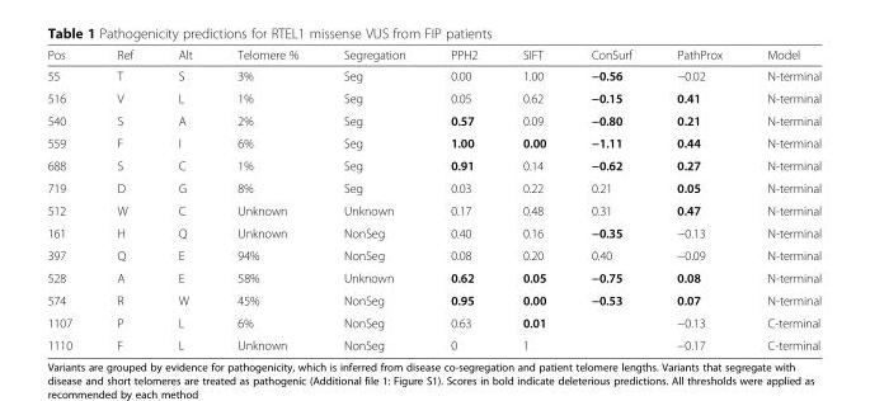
<table><thead><tr><td>Pos</td><td>Ref</td><td>Alt</td><td>Telomere %</td><td>Segregation</td><td>PPH2</td><td>SIFT</td><td>ConSurf</td><td>PathProx</td><td>Model</td></tr></thead><tbody><tr><td>55</td><td>T</td><td>S</td><td>3%</td><td>Seg</td><td>0.00</td><td>1.00</td><td>−0.56</td><td>−0.02</td><td>N-terminal</td></tr><tr><td>516</td><td>V</td><td>L</td><td>1%</td><td>Seg</td><td>0.05</td><td>0.62</td><td>−0.15</td><td>0.41</td><td>N-terminal</td></tr><tr><td>540</td><td>S</td><td>A</td><td>2%</td><td>Seg</td><td>0.57</td><td>0.09</td><td>−0.80</td><td>0.21</td><td>N-terminal</td></tr><tr><td>559</td><td>F</td><td>I</td><td>6%</td><td>Seg</td><td>1.00</td><td>0.00</td><td>−1.11</td><td>0.44</td><td>N-terminal</td></tr><tr><td>688</td><td>S</td><td>C</td><td>1%</td><td>Seg</td><td>0.91</td><td>0.14</td><td>−0.62</td><td>0.27</td><td>N-terminal</td></tr><tr><td>719</td><td>D</td><td>G</td><td>8%</td><td>Seg</td><td>0.03</td><td>0.22</td><td>0.21</td><td>0.05</td><td>N-terminal</td></tr><tr><td>512</td><td>W</td><td>C</td><td>Unknown</td><td>Unknown</td><td>0.17</td><td>0.48</td><td>0.31</td><td>0.47</td><td>N-terminal</td></tr><tr><td>161</td><td>H</td><td>Q</td><td>Unknown</td><td>NonSeg</td><td>0.40</td><td>0.16</td><td>−0.35</td><td>−0.13</td><td>N-terminal</td></tr><tr><td>397</td><td>Q</td><td>E</td><td>94%</td><td>NonSeg</td><td>0.08</td><td>0.20</td><td>0.40</td><td>−0.09</td><td>N-terminal</td></tr><tr><td>528</td><td>A</td><td>E</td><td>58%</td><td>Unknown</td><td>0.62</td><td>0.05</td><td>−0.75</td><td>0.08</td><td>N-terminal</td></tr><tr><td>574</td><td>R</td><td>W</td><td>45%</td><td>NonSeg</td><td>0.95</td><td>0.00</td><td>−0.53</td><td>0.07</td><td>N-terminal</td></tr><tr><td>1107</td><td>P</td><td>L</td><td>6%</td><td>NonSeg</td><td>0.63</td><td>0.01</td><td></td><td>−0.13</td><td>C-terminal</td></tr><tr><td>1110</td><td>F</td><td>L</td><td>Unknown</td><td>NonSeg</td><td>0</td><td>1</td><td></td><td>−0.17</td><td>C-terminal</td></tr></tbody></table>